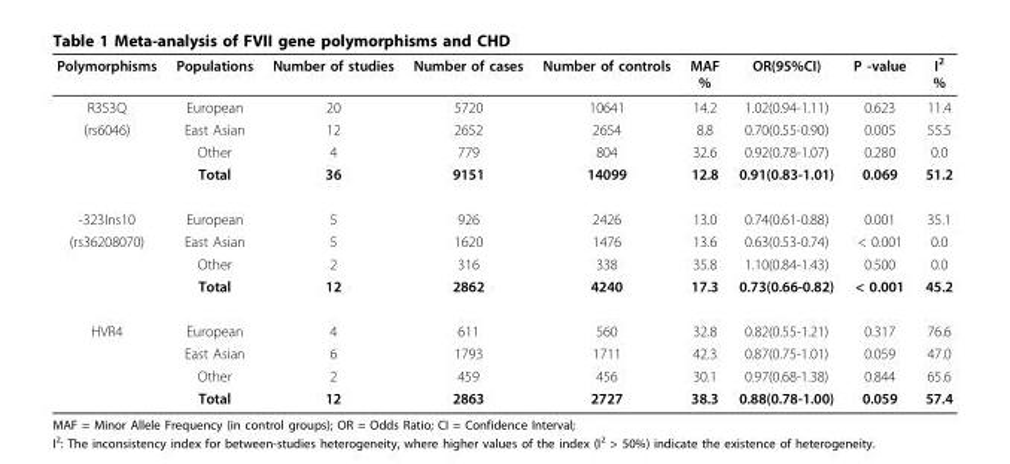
<table><thead><tr><td>Polymorphisms</td><td>Populations</td><td>Number of studies</td><td>Number of cases</td><td>Number of controls</td><td>MAF %</td><td>OR(95%CI)</td><td>P -value</td><td>I<sup>2</sup> %</td></tr></thead><tbody><tr><td>R353Q</td><td>European</td><td>20</td><td>5720</td><td>10641</td><td>14.2</td><td>1.02(0.94-1.11)</td><td>0.623</td><td>11.4</td></tr><tr><td rowspan="3">(rs6046)</td><td>East Asian</td><td>12</td><td>2652</td><td>2654</td><td>8.8</td><td>0.70(0.55-0.90)</td><td>0.005</td><td>55.5</td></tr><tr><td>Other</td><td>4</td><td>779</td><td>804</td><td>32.6</td><td>0.92(0.78-1.07)</td><td>0.280</td><td>0.0</td></tr><tr><td>Total</td><td>36</td><td>9151</td><td>14099</td><td>12.8</td><td>0.91(0.83-1.01)</td><td>0.069</td><td>51.2</td></tr><tr><td>-323Ins10</td><td>European</td><td>5</td><td>926</td><td>2426</td><td>13.0</td><td>0.74(0.61-0.88)</td><td>0.001</td><td>35.1</td></tr><tr><td rowspan="3">(rs36208070)</td><td>East Asian</td><td>5</td><td>1620</td><td>1476</td><td>13.6</td><td>0.63(0.53-0.74)</td><td>&lt; 0.001</td><td>0.0</td></tr><tr><td>Other</td><td>2</td><td>316</td><td>338</td><td>35.8</td><td>1.10(0.84-1.43)</td><td>0.500</td><td>0.0</td></tr><tr><td>Total</td><td>12</td><td>2862</td><td>4240</td><td>17.3</td><td>0.73(0.66-0.82)</td><td>&lt; 0.001</td><td>45.2</td></tr><tr><td rowspan="4">HVR4</td><td>European</td><td>4</td><td>611</td><td>560</td><td>32.8</td><td>0.82(0.55-1.21)</td><td>0.317</td><td>76.6</td></tr><tr><td>East Asian</td><td>6</td><td>1793</td><td>1711</td><td>42.3</td><td>0.87(0.75-1.01)</td><td>0.059</td><td>47.0</td></tr><tr><td>Other</td><td>2</td><td>459</td><td>456</td><td>30.1</td><td>0.97(0.68-1.38)</td><td>0.844</td><td>65.6</td></tr><tr><td>Total</td><td>12</td><td>2863</td><td>2727</td><td>38.3</td><td>0.88(0.78-1.00)</td><td>0.059</td><td>57.4</td></tr></tbody></table>